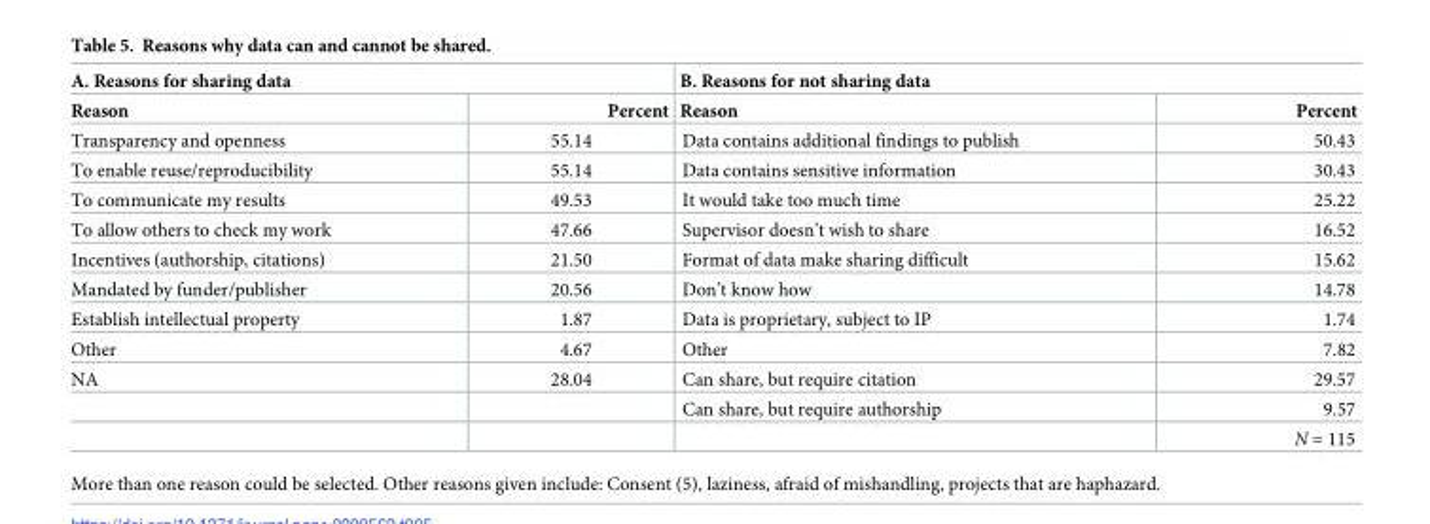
<table><thead><tr><td colspan="2">A. Reasons for sharing data</td><td colspan="2">B. Reasons for not sharing data</td></tr><tr><td>Reason</td><td>Percent</td><td>Reason</td><td>Percent</td></tr></thead><tbody><tr><td>Transparency and openness</td><td>55.14</td><td>Data contains additional findings to publish</td><td>50.43</td></tr><tr><td>To enable reuse/reproducibility</td><td>55.14</td><td>Data contains sensitive information</td><td>30.43</td></tr><tr><td>To communicate my results</td><td>49.53</td><td>It would take too much time</td><td>25.22</td></tr><tr><td>To allow others to check my work</td><td>47.66</td><td>Supervisor doesn’t wish to share</td><td>16.52</td></tr><tr><td>Incentives (authorship, citations)</td><td>21.50</td><td>Format of data make sharing difficult</td><td>15.62</td></tr><tr><td>Mandated by funder/publisher</td><td>20.56</td><td>Don’t know how</td><td>14.78</td></tr><tr><td>Establish intellectual property</td><td>1.87</td><td>Data is proprietary, subject to IP</td><td>1.74</td></tr><tr><td>Other</td><td>4.67</td><td>Other</td><td>7.82</td></tr><tr><td rowspan="3">NA</td><td>28.04</td><td>Can share, but require citation</td><td>29.57</td></tr><tr><td></td><td>Can share, but require authorship</td><td>9.57</td></tr><tr><td></td><td></td><td>N = 115</td></tr></tbody></table>